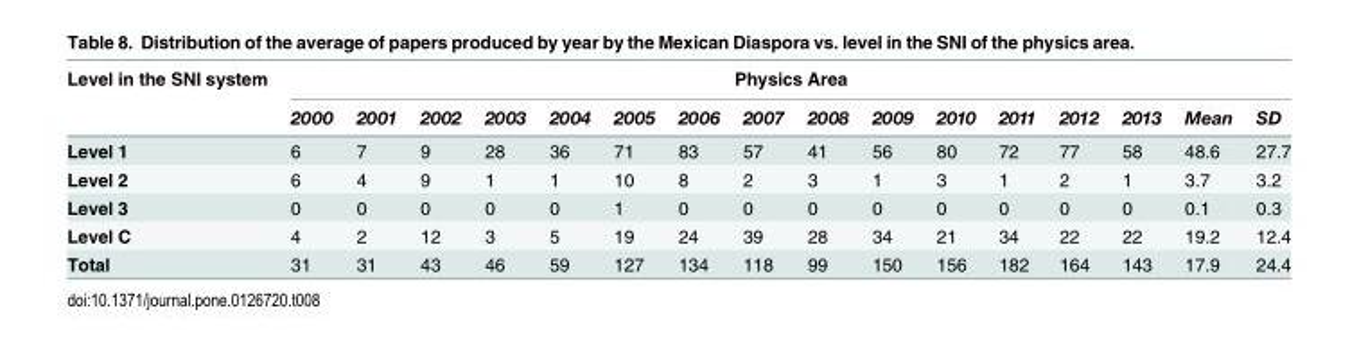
<table><thead><tr><td rowspan="2">Level in the SNI system</td><td colspan="16">Physics Area</td></tr><tr><td>2000</td><td>2001</td><td>2002</td><td>2003</td><td>2004</td><td>2005</td><td>2006</td><td>2007</td><td>2008</td><td>2009</td><td>2010</td><td>2011</td><td>2012</td><td>2013</td><td>Mean</td><td>SD</td></tr></thead><tbody><tr><td>Level 1</td><td>6</td><td>7</td><td>9</td><td>28</td><td>36</td><td>71</td><td>83</td><td>57</td><td>41</td><td>56</td><td>80</td><td>72</td><td>77</td><td>58</td><td>48.6</td><td>27.7</td></tr><tr><td>Level 2</td><td>6</td><td>4</td><td>9</td><td>1</td><td>1</td><td>10</td><td>8</td><td>2</td><td>3</td><td>1</td><td>3</td><td>1</td><td>2</td><td>1</td><td>3.7</td><td>3.2</td></tr><tr><td>Level 3</td><td>0</td><td>0</td><td>0</td><td>0</td><td>0</td><td>1</td><td>0</td><td>0</td><td>0</td><td>0</td><td>0</td><td>0</td><td>0</td><td>0</td><td>0.1</td><td>0.3</td></tr><tr><td>Level C</td><td>4</td><td>2</td><td>12</td><td>3</td><td>5</td><td>19</td><td>24</td><td>39</td><td>28</td><td>34</td><td>21</td><td>34</td><td>22</td><td>22</td><td>19.2</td><td>12.4</td></tr><tr><td>Total</td><td>31</td><td>31</td><td>43</td><td>46</td><td>59</td><td>127</td><td>134</td><td>118</td><td>99</td><td>150</td><td>156</td><td>182</td><td>164</td><td>143</td><td>17.9</td><td>24.4</td></tr></tbody></table>